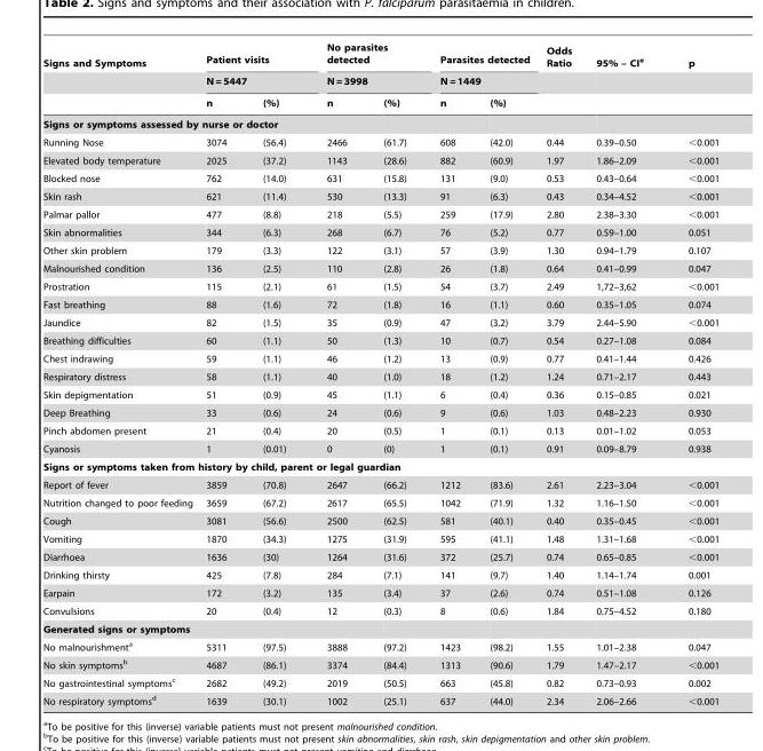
<table><thead><tr><td rowspan="3">Signs and Symptoms</td><td rowspan="2" colspan="2">Patient visits N = 5447</td><td rowspan="2" colspan="2">No parasites detected N = 3998</td><td rowspan="2" colspan="2">Parasites detected N = 1449</td><td rowspan="3">Odds Ratio</td><td rowspan="3">95% – CI<sup>e</sup></td><td rowspan="3">p</td></tr><tr></tr><tr><td>n</td><td>(%)</td><td>n</td><td>(%)</td><td>n</td><td>(%)</td></tr></thead><tbody><tr><td colspan="10">Signs or symptoms assessed by nurse or doctor</td></tr><tr><td>Running Nose</td><td>3074</td><td>(56.4)</td><td>2466</td><td>(61.7)</td><td>608</td><td>(42.0)</td><td>0.44</td><td>0.39–0.50</td><td>&lt;0.001</td></tr><tr><td>Elevated body temperature</td><td>2025</td><td>(37.2)</td><td>1143</td><td>(28.6)</td><td>882</td><td>(60.9)</td><td>1.97</td><td>1.86–2.09</td><td>&lt;0.001</td></tr><tr><td>Blocked nose</td><td>762</td><td>(14.0)</td><td>631</td><td>(15.8)</td><td>131</td><td>(9.0)</td><td>0.53</td><td>0.43–0.64</td><td>&lt;0.001</td></tr><tr><td>Skin rash</td><td>621</td><td>(11.4)</td><td>530</td><td>(13.3)</td><td>91</td><td>(6.3)</td><td>0.43</td><td>0.34–4.52</td><td>&lt;0.001</td></tr><tr><td>Palmar pallor</td><td>477</td><td>(8.8)</td><td>218</td><td>(5.5)</td><td>259</td><td>(17.9)</td><td>2.80</td><td>2.38–3.30</td><td>&lt;0.001</td></tr><tr><td>Skin abnormalities</td><td>344</td><td>(6.3)</td><td>268</td><td>(6.7)</td><td>76</td><td>(5.2)</td><td>0.77</td><td>0.59–1.00</td><td>0.051</td></tr><tr><td>Other skin problem</td><td>179</td><td>(3.3)</td><td>122</td><td>(3.1)</td><td>57</td><td>(3.9)</td><td>1.30</td><td>0.94–1.79</td><td>0.107</td></tr><tr><td>Malnourished condition</td><td>136</td><td>(2.5)</td><td>110</td><td>(2.8)</td><td>26</td><td>(1.8)</td><td>0.64</td><td>0.41–0.99</td><td>0.047</td></tr><tr><td>Prostration</td><td>115</td><td>(2.1)</td><td>61</td><td>(1.5)</td><td>54</td><td>(3.7)</td><td>2.49</td><td>1,72–3,62</td><td>&lt;0.001</td></tr><tr><td>Fast breathing</td><td>88</td><td>(1.6)</td><td>72</td><td>(1.8)</td><td>16</td><td>(1.1)</td><td>0.60</td><td>0.35–1.05</td><td>0.074</td></tr><tr><td>Jaundice</td><td>82</td><td>(1.5)</td><td>35</td><td>(0.9)</td><td>47</td><td>(3.2)</td><td>3.79</td><td>2.44–5.90</td><td>&lt;0.001</td></tr><tr><td>Breathing difficulties</td><td>60</td><td>(1.1)</td><td>50</td><td>(1.3)</td><td>10</td><td>(0.7)</td><td>0.54</td><td>0.27–1.08</td><td>0.084</td></tr><tr><td>Chest indrawing</td><td>59</td><td>(1.1)</td><td>46</td><td>(1.2)</td><td>13</td><td>(0.9)</td><td>0.77</td><td>0.41–1.44</td><td>0.426</td></tr><tr><td>Respiratory distress</td><td>58</td><td>(1.1)</td><td>40</td><td>(1.0)</td><td>18</td><td>(1.2)</td><td>1.24</td><td>0.71–2.17</td><td>0.443</td></tr><tr><td>Skin depigmentation</td><td>51</td><td>(0.9)</td><td>45</td><td>(1.1)</td><td>6</td><td>(0.4)</td><td>0.36</td><td>0.15–0.85</td><td>0.021</td></tr><tr><td>Deep Breathing</td><td>33</td><td>(0.6)</td><td>24</td><td>(0.6)</td><td>9</td><td>(0.6)</td><td>1.03</td><td>0.48–2.23</td><td>0.930</td></tr><tr><td>Pinch abdomen present</td><td>21</td><td>(0.4)</td><td>20</td><td>(0.5)</td><td>1</td><td>(0.1)</td><td>0.13</td><td>0.01–1.02</td><td>0.053</td></tr><tr><td>Cyanosis</td><td>1</td><td>(0.01)</td><td>0</td><td>(0)</td><td>1</td><td>(0.1)</td><td>0.91</td><td>0.09–8.79</td><td>0.938</td></tr><tr><td colspan="10">Signs or symptoms taken from history by child, parent or legal guardian</td></tr><tr><td>Report of fever</td><td>3859</td><td>(70.8)</td><td>2647</td><td>(66.2)</td><td>1212</td><td>(83.6)</td><td>2.61</td><td>2.23–3.04</td><td>&lt;0.001</td></tr><tr><td>Nutrition changed to poor feeding</td><td>3659</td><td>(67.2)</td><td>2617</td><td>(65.5)</td><td>1042</td><td>(71.9)</td><td>1.32</td><td>1.16–1.50</td><td>&lt;0.001</td></tr><tr><td>Cough</td><td>3081</td><td>(56.6)</td><td>2500</td><td>(62.5)</td><td>581</td><td>(40.1)</td><td>0.40</td><td>0.35–0.45</td><td>&lt;0.001</td></tr><tr><td>Vomiting</td><td>1870</td><td>(34.3)</td><td>1275</td><td>(31.9)</td><td>595</td><td>(41.1)</td><td>1.48</td><td>1.31–1.68</td><td>&lt;0.001</td></tr><tr><td>Diarrhoea</td><td>1636</td><td>(30)</td><td>1264</td><td>(31.6)</td><td>372</td><td>(25.7)</td><td>0.74</td><td>0.65–0.85</td><td>&lt;0.001</td></tr><tr><td>Drinking thirsty</td><td>425</td><td>(7.8)</td><td>284</td><td>(7.1)</td><td>141</td><td>(9.7)</td><td>1.40</td><td>1.14–1.74</td><td>0.001</td></tr><tr><td>Earpain</td><td>172</td><td>(3.2)</td><td>135</td><td>(3.4)</td><td>37</td><td>(2.6)</td><td>0.74</td><td>0.51–1.08</td><td>0.126</td></tr><tr><td>Convulsions</td><td>20</td><td>(0.4)</td><td>12</td><td>(0.3)</td><td>8</td><td>(0.6)</td><td>1.84</td><td>0.75–4.52</td><td>0.180</td></tr><tr><td colspan="10">Generated signs or symptoms</td></tr><tr><td>No malnourishment<sup>a</sup></td><td>5311</td><td>(97.5)</td><td>3888</td><td>(97.2)</td><td>1423</td><td>(98.2)</td><td>1.55</td><td>1.01–2.38</td><td>0.047</td></tr><tr><td>No skin symptoms<sup>b</sup></td><td>4687</td><td>(86.1)</td><td>3374</td><td>(84.4)</td><td>1313</td><td>(90.6)</td><td>1.79</td><td>1.47–2.17</td><td>&lt;0.001</td></tr><tr><td>No gastrointestinal symptoms<sup>c</sup></td><td>2682</td><td>(49.2)</td><td>2019</td><td>(50.5)</td><td>663</td><td>(45.8)</td><td>0.82</td><td>0.73–0.93</td><td>0.002</td></tr><tr><td>No respiratory symptoms<sup>d</sup></td><td>1639</td><td>(30.1)</td><td>1002</td><td>(25.1)</td><td>637</td><td>(44.0)</td><td>2.34</td><td>2.06–2.66</td><td>&lt;0.001</td></tr></tbody></table>